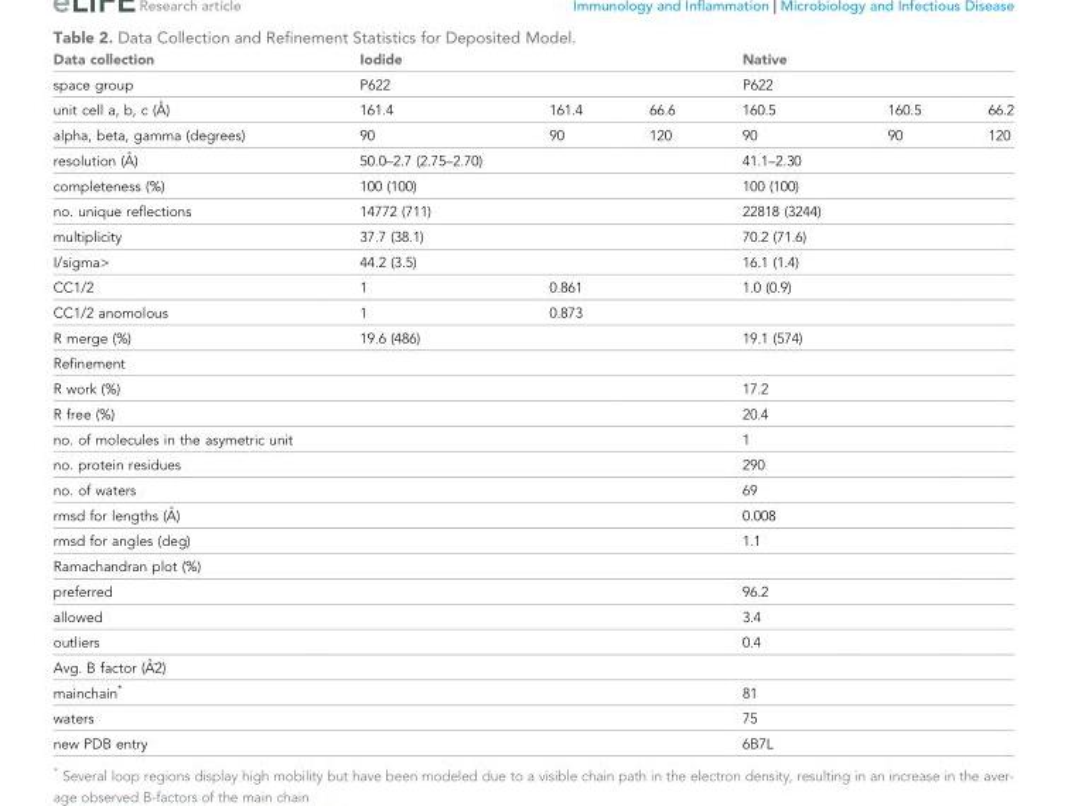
<table><thead><tr><td>Data collection</td><td>Iodide</td><td></td><td></td><td>Native</td><td></td><td></td></tr></thead><tbody><tr><td>space group</td><td>P622</td><td></td><td></td><td>P622</td><td></td><td></td></tr><tr><td>unit cell a, b, c (A˚ )</td><td>161.4</td><td>161.4</td><td>66.6</td><td>160.5</td><td>160.5</td><td>66.2</td></tr><tr><td>alpha, beta, gamma (degrees)</td><td>90</td><td>90</td><td>120</td><td>90</td><td>90</td><td>120</td></tr><tr><td>resolution (A˚ )</td><td>50.0–2.7 (2.75–2.70)</td><td></td><td></td><td>41.1–2.30</td><td></td><td></td></tr><tr><td>completeness (%)</td><td>100 (100)</td><td></td><td></td><td>100 (100)</td><td></td><td></td></tr><tr><td>no. unique reflections</td><td>14772 (711)</td><td></td><td></td><td>22818 (3244)</td><td></td><td></td></tr><tr><td>multiplicity</td><td>37.7 (38.1)</td><td></td><td></td><td>70.2 (71.6)</td><td></td><td></td></tr><tr><td>I/sigma&gt;</td><td>44.2 (3.5)</td><td></td><td></td><td>16.1 (1.4)</td><td></td><td></td></tr><tr><td>CC1/2</td><td>1</td><td>0.861</td><td></td><td>1.0 (0.9)</td><td></td><td></td></tr><tr><td>CC1/2 anomolous</td><td>1</td><td>0.873</td><td></td><td></td><td></td><td></td></tr><tr><td>R merge (%)</td><td>19.6 (486)</td><td></td><td></td><td>19.1 (574)</td><td></td><td></td></tr><tr><td colspan="7">Refinement</td></tr><tr><td>R work (%)</td><td></td><td></td><td></td><td>17.2</td><td></td><td></td></tr><tr><td>R free (%)</td><td></td><td></td><td></td><td>20.4</td><td></td><td></td></tr><tr><td>no. of molecules in the asymetric unit</td><td></td><td></td><td></td><td>1</td><td></td><td></td></tr><tr><td>no. protein residues</td><td></td><td></td><td></td><td>290</td><td></td><td></td></tr><tr><td>no. of waters</td><td></td><td></td><td></td><td>69</td><td></td><td></td></tr><tr><td>rmsd for lengths (A˚ )</td><td></td><td></td><td></td><td>0.008</td><td></td><td></td></tr><tr><td>rmsd for angles (deg)</td><td></td><td></td><td></td><td>1.1</td><td></td><td></td></tr><tr><td colspan="7">Ramachandran plot (%)</td></tr><tr><td>preferred</td><td></td><td></td><td></td><td>96.2</td><td></td><td></td></tr><tr><td>allowed</td><td></td><td></td><td></td><td>3.4</td><td></td><td></td></tr><tr><td>outliers</td><td></td><td></td><td></td><td>0.4</td><td></td><td></td></tr><tr><td colspan="7">Avg. B factor (A˚^2)</td></tr><tr><td>mainchain*</td><td></td><td></td><td></td><td>81</td><td></td><td></td></tr><tr><td>waters</td><td></td><td></td><td></td><td>75</td><td></td><td></td></tr><tr><td>new PDB entry</td><td></td><td></td><td></td><td>6B7L</td><td></td><td></td></tr></tbody></table>